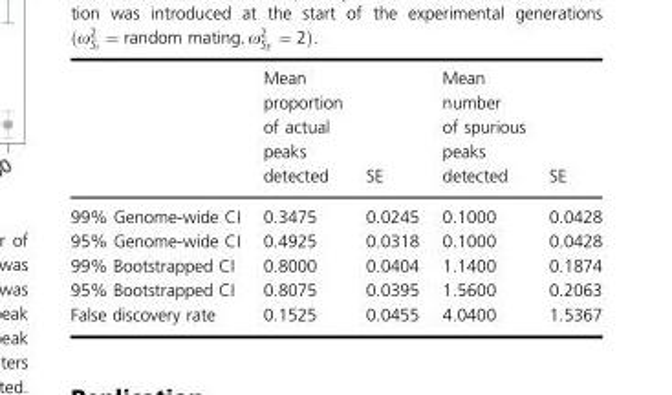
<table><thead><tr><td></td><td>Mean proportion of actual peaks detected</td><td>SE</td><td>Mean number of spurious peaks detected</td><td>SE</td></tr></thead><tbody><tr><td>99% Genome-wide CI</td><td>0.3475</td><td>0.0245</td><td>0.1000</td><td>0.0428</td></tr><tr><td>95% Genome-wide CI</td><td>0.4925</td><td>0.0318</td><td>0.1000</td><td>0.0428</td></tr><tr><td>99% Bootstrapped CI</td><td>0.8000</td><td>0.0404</td><td>1.1400</td><td>0.1874</td></tr><tr><td>95% Bootstrapped CI</td><td>0.8075</td><td>0.0395</td><td>1.5600</td><td>0.2063</td></tr><tr><td>False discovery rate</td><td>0.1525</td><td>0.0455</td><td>4.0400</td><td>1.5367</td></tr></tbody></table>